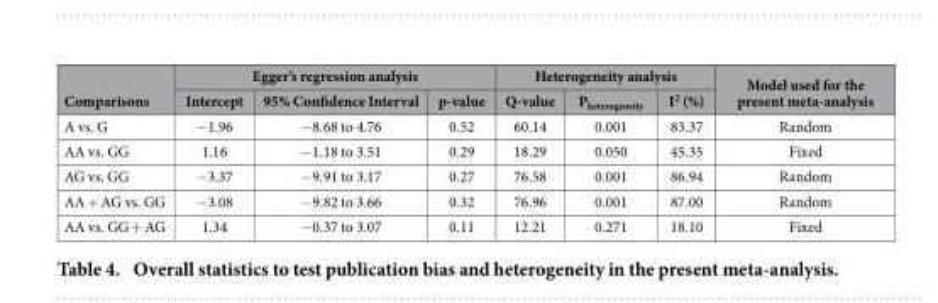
<table><thead><tr><td rowspan="2">Comparisons</td><td colspan="3">Egger’s regression analysis</td><td colspan="3">Heterogeneity analysis</td><td rowspan="2">Model used for the present meta-analysis</td></tr><tr><td>Intercept</td><td>95% Confidence Interval</td><td>p-value</td><td>Q-value</td><td>P<sub>heterogeneity</sub></td><td>I<sup>2</sup> (%)</td></tr></thead><tbody><tr><td>A vs. G</td><td>− 1.96</td><td>− 8.68 to 4.76</td><td>0.52</td><td>60.14</td><td>0.001</td><td>83.37</td><td>Random</td></tr><tr><td>AA vs. GG</td><td>1.16</td><td>− 1.18 to 3.51</td><td>0.29</td><td>18.29</td><td>0.050</td><td>45.35</td><td>Fixed</td></tr><tr><td>AG vs. GG</td><td>− 3.37</td><td>− 9.91 to 3.17</td><td>0.27</td><td>76.58</td><td>0.001</td><td>86.94</td><td>Random</td></tr><tr><td>AA + AG vs. GG</td><td>− 3.08</td><td>− 9.82 to 3.66</td><td>0.32</td><td>76.96</td><td>0.001</td><td>87.00</td><td>Random</td></tr><tr><td>AA vs. GG + AG</td><td>1.34</td><td>− 0.37 to 3.07</td><td>0.11</td><td>12.21</td><td>0.271</td><td>18.10</td><td>Fixed</td></tr></tbody></table>